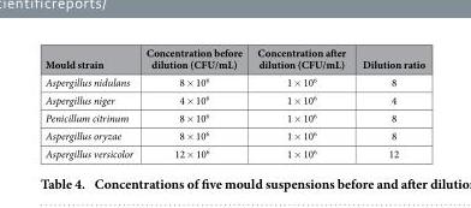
<table><thead><tr><td>Mould strain</td><td>Concentration before dilution (CFU/mL)</td><td>Concentration after dilution (CFU/mL)</td><td>Dilution ratio</td></tr></thead><tbody><tr><td>Aspergillus nidulans</td><td>8 × 10<sup>6</sup></td><td>1 × 10<sup>6</sup></td><td>8</td></tr><tr><td>Aspergillus niger</td><td>4 × 10<sup>6</sup></td><td>1 × 10<sup>6</sup></td><td>4</td></tr><tr><td>Penicillum citrinum</td><td>8 × 10<sup>6</sup></td><td>1 × 10<sup>6</sup></td><td>8</td></tr><tr><td>Aspergillus oryzae</td><td>8 × 10<sup>6</sup></td><td>1 × 10<sup>6</sup></td><td>8</td></tr><tr><td>Aspergillus versicolor</td><td>12 × 10<sup>6</sup></td><td>1 × 10<sup>6</sup></td><td>12</td></tr></tbody></table>